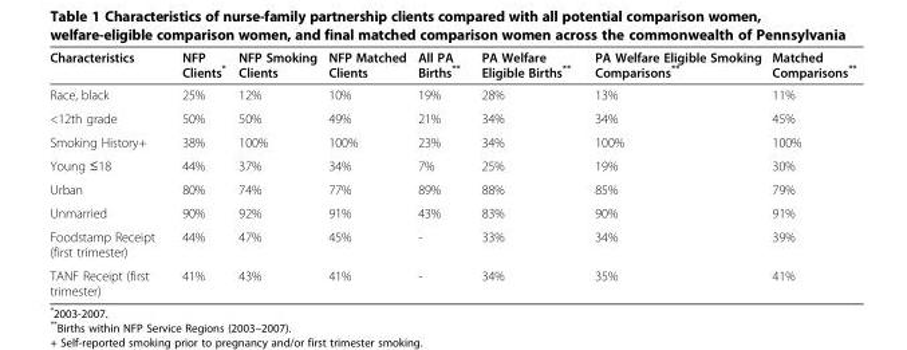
<table><thead><tr><td>Characteristics</td><td>NFP Clients*</td><td>NFP Smoking Clients</td><td>NFP Matched Clients</td><td>All PA Births**</td><td>PA Welfare Eligible Births**</td><td>PA Welfare Eligible Smoking Comparisons**</td><td>Matched Comparisons**</td></tr></thead><tbody><tr><td>Race, black</td><td>25%</td><td>12%</td><td>10%</td><td>19%</td><td>28%</td><td>13%</td><td>11%</td></tr><tr><td>&lt;12th grade</td><td>50%</td><td>50%</td><td>49%</td><td>21%</td><td>34%</td><td>34%</td><td>45%</td></tr><tr><td>Smoking History+</td><td>38%</td><td>100%</td><td>100%</td><td>23%</td><td>34%</td><td>100%</td><td>100%</td></tr><tr><td>Young ≤18</td><td>44%</td><td>37%</td><td>34%</td><td>7%</td><td>25%</td><td>19%</td><td>30%</td></tr><tr><td>Urban</td><td>80%</td><td>74%</td><td>77%</td><td>89%</td><td>88%</td><td>85%</td><td>79%</td></tr><tr><td>Unmarried</td><td>90%</td><td>92%</td><td>91%</td><td>43%</td><td>83%</td><td>90%</td><td>91%</td></tr><tr><td>Foodstamp Receipt (first trimester)</td><td>44%</td><td>47%</td><td>45%</td><td>-</td><td>33%</td><td>34%</td><td>39%</td></tr><tr><td>TANF Receipt (first trimester)</td><td>41%</td><td>43%</td><td>41%</td><td>-</td><td>34%</td><td>35%</td><td>41%</td></tr></tbody></table>